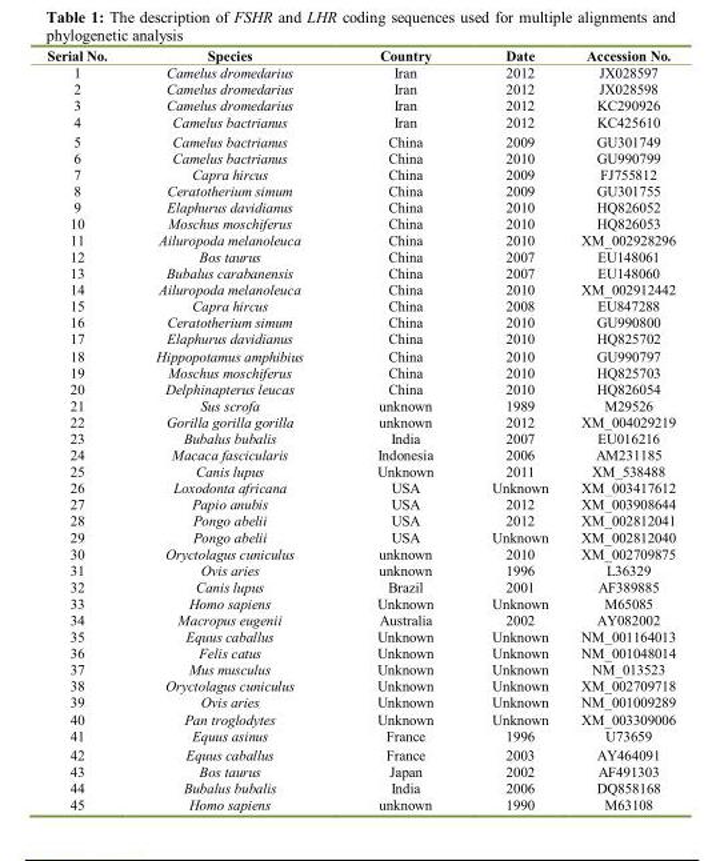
<table><thead><tr><td>Serial No.</td><td>Species</td><td>Country</td><td>Date</td><td>Accession No.</td></tr></thead><tbody><tr><td>1</td><td>Camelus dromedarius</td><td>Iran</td><td>2012</td><td>JX028597</td></tr><tr><td>2</td><td>Camelus dromedarius</td><td>Iran</td><td>2012</td><td>JX028598</td></tr><tr><td>3</td><td>Camelus dromedarius</td><td>Iran</td><td>2012</td><td>KC290926</td></tr><tr><td>4</td><td>Camelus bactrianus</td><td>Iran</td><td>2012</td><td>KC425610</td></tr><tr><td>5</td><td>Camelus bactrianus</td><td>China</td><td>2009</td><td>GU301749</td></tr><tr><td>6</td><td>Camelus bactrianus</td><td>China</td><td>2010</td><td>GU990799</td></tr><tr><td>7</td><td>Capra hircus</td><td>China</td><td>2009</td><td>FJ755812</td></tr><tr><td>8</td><td>Ceratotherium simum</td><td>China</td><td>2009</td><td>GU301755</td></tr><tr><td>9</td><td>Elaphurus davidianus</td><td>China</td><td>2010</td><td>HQ826052</td></tr><tr><td>10</td><td>Moschus moschiferus</td><td>China</td><td>2010</td><td>HQ826053</td></tr><tr><td>11</td><td>Ailuropoda melanoleuca</td><td>China</td><td>2010</td><td>XM_002928296</td></tr><tr><td>12</td><td>Bos taurus</td><td>China</td><td>2007</td><td>EU148061</td></tr><tr><td>13</td><td>Bubalus carabanensis</td><td>China</td><td>2007</td><td>EU148060</td></tr><tr><td>14</td><td>Ailuropoda melanoleuca</td><td>China</td><td>2010</td><td>XM_002912442</td></tr><tr><td>15</td><td>Capra hircus</td><td>China</td><td>2008</td><td>EU847288</td></tr><tr><td>16</td><td>Ceratotherium simum</td><td>China</td><td>2010</td><td>GU990800</td></tr><tr><td>17</td><td>Elaphurus davidianus</td><td>China</td><td>2010</td><td>HQ825702</td></tr><tr><td>18</td><td>Hippopotamus amphibius</td><td>China</td><td>2010</td><td>GU990797</td></tr><tr><td>19</td><td>Moschus moschiferus</td><td>China</td><td>2010</td><td>HQ825703</td></tr><tr><td>20</td><td>Delphinapterus leucas</td><td>China</td><td>2010</td><td>HQ826054</td></tr><tr><td>21</td><td>Sus scrofa</td><td>unknown</td><td>1989</td><td>M29526</td></tr><tr><td>22</td><td>Gorilla gorilla gorilla</td><td>unknown</td><td>2012</td><td>XM_004029219</td></tr><tr><td>23</td><td>Bubalus bubalis</td><td>India</td><td>2007</td><td>EU016216</td></tr><tr><td>24</td><td>Macaca fascicularis</td><td>Indonesia</td><td>2006</td><td>AM231185</td></tr><tr><td>25</td><td>Canis lupus</td><td>Unknown</td><td>2011</td><td>XM_538488</td></tr><tr><td>26</td><td>Loxodonta africana</td><td>USA</td><td>Unknown</td><td>XM_003417612</td></tr><tr><td>27</td><td>Papio anubis</td><td>USA</td><td>2012</td><td>XM_003908644</td></tr><tr><td>28</td><td>Pongo abelii</td><td>USA</td><td>2012</td><td>XM_002812041</td></tr><tr><td>29</td><td>Pongo abelii</td><td>USA</td><td>Unknown</td><td>XM_002812040</td></tr><tr><td>30</td><td>Oryctolagus cuniculus</td><td>unknown</td><td>2010</td><td>XM_002709875</td></tr><tr><td>31</td><td>Ovis aries</td><td>unknown</td><td>1996</td><td>L36329</td></tr><tr><td>32</td><td>Canis lupus</td><td>Brazil</td><td>2001</td><td>AF389885</td></tr><tr><td>33</td><td>Homo sapiens</td><td>Unknown</td><td>Unknown</td><td>M65085</td></tr><tr><td>34</td><td>Macropus eugenii</td><td>Australia</td><td>2002</td><td>AY082002</td></tr><tr><td>35</td><td>Equus caballus</td><td>Unknown</td><td>Unknown</td><td>NM_001164013</td></tr><tr><td>36</td><td>Felis catus</td><td>Unknown</td><td>Unknown</td><td>NM_001048014</td></tr><tr><td>37</td><td>Mus musculus</td><td>Unknown</td><td>Unknown</td><td>NM_013523</td></tr><tr><td>38</td><td>Oryctolagus cuniculus</td><td>Unknown</td><td>Unknown</td><td>XM_002709718</td></tr><tr><td>39</td><td>Ovis aries</td><td>Unknown</td><td>Unknown</td><td>NM_001009289</td></tr><tr><td>40</td><td>Pan troglodytes</td><td>Unknown</td><td>Unknown</td><td>XM_003309006</td></tr><tr><td>41</td><td>Equus asinus</td><td>France</td><td>1996</td><td>U73659</td></tr><tr><td>42</td><td>Equus caballus</td><td>France</td><td>2003</td><td>AY464091</td></tr><tr><td>43</td><td>Bos taurus</td><td>Japan</td><td>2002</td><td>AF491303</td></tr><tr><td>44</td><td>Bubalus bubalis</td><td>India</td><td>2006</td><td>DQ858168</td></tr><tr><td>45</td><td>Homo sapiens</td><td>unknown</td><td>1990</td><td>M63108</td></tr></tbody></table>